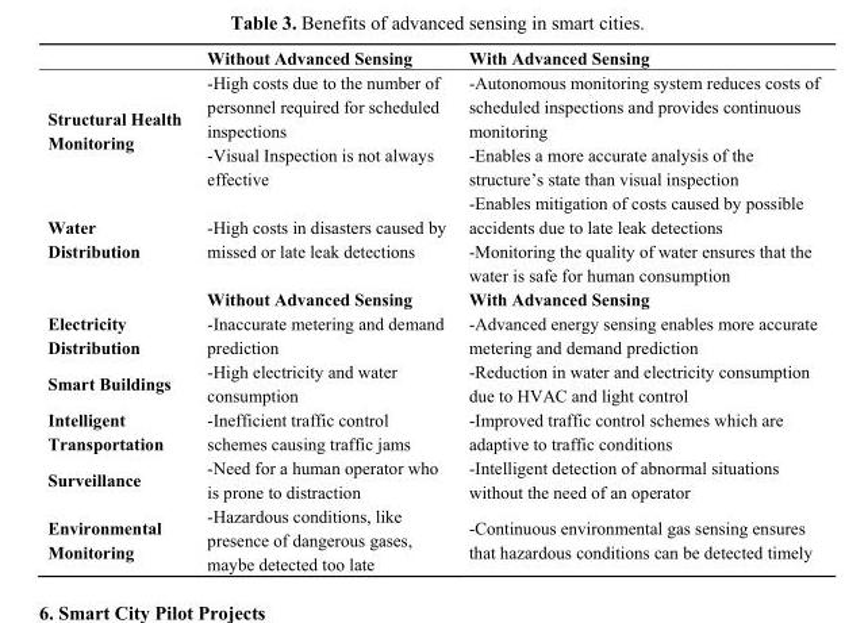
<table><thead><tr><td></td><td>Without Advanced Sensing</td><td>With Advanced Sensing</td></tr></thead><tbody><tr><td>Structural Health Monitoring</td><td>-High costs due to the number of personnel required for scheduled inspections -Visual Inspection is not always effective</td><td>-Autonomous monitoring system reduces costs of scheduled inspections and provides continuous monitoring -Enables a more accurate analysis of the structure’s state than visual inspection</td></tr><tr><td rowspan="2">Water Distribution</td><td>-High costs in disasters caused by missed or late leak detections</td><td>-Enables mitigation of costs caused by possible accidents due to late leak detections -Monitoring the quality of water ensures that the water is safe for human consumption</td></tr><tr><td>Without Advanced Sensing</td><td>With Advanced Sensing</td></tr><tr><td>Electricity Distribution</td><td>-Inaccurate metering and demand prediction</td><td>-Advanced energy sensing enables more accurate metering and demand prediction</td></tr><tr><td>Smart Buildings</td><td>-High electricity and water consumption</td><td>-Reduction in water and electricity consumption due to HVAC and light control</td></tr><tr><td>Intelligent Transportation</td><td>-Inefficient traffic control schemes causing traffic jams</td><td>-Improved traffic control schemes which are adaptive to traffic conditions</td></tr><tr><td>Surveillance</td><td>-Need for a human operator who is prone to distraction</td><td>-Intelligent detection of abnormal situations without the need of an operator</td></tr><tr><td>Environmental Monitoring</td><td>-Hazardous conditions, like presence of dangerous gases, maybe detected too late</td><td>-Continuous environmental gas sensing ensures that hazardous conditions can be detected timely</td></tr></tbody></table>